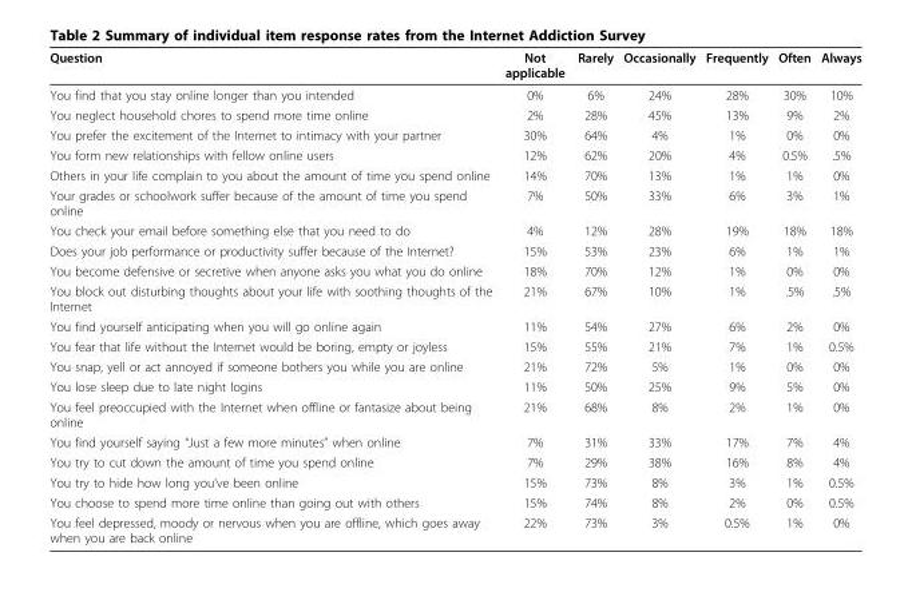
<table><thead><tr><td>Question</td><td>Not applicable</td><td>Rarely</td><td>Occasionally</td><td>Frequently</td><td>Often</td><td>Always</td></tr></thead><tbody><tr><td>You find that you stay online longer than you intended</td><td>0%</td><td>6%</td><td>24%</td><td>28%</td><td>30%</td><td>10%</td></tr><tr><td>You neglect household chores to spend more time online</td><td>2%</td><td>28%</td><td>45%</td><td>13%</td><td>9%</td><td>2%</td></tr><tr><td>You prefer the excitement of the Internet to intimacy with your partner</td><td>30%</td><td>64%</td><td>4%</td><td>1%</td><td>0%</td><td>0%</td></tr><tr><td>You form new relationships with fellow online users</td><td>12%</td><td>62%</td><td>20%</td><td>4%</td><td>0.5%</td><td>.5%</td></tr><tr><td>Others in your life complain to you about the amount of time you spend online</td><td>14%</td><td>70%</td><td>13%</td><td>1%</td><td>1%</td><td>0%</td></tr><tr><td>Your grades or schoolwork suffer because of the amount of time you spend online</td><td>7%</td><td>50%</td><td>33%</td><td>6%</td><td>3%</td><td>1%</td></tr><tr><td>You check your email before something else that you need to do</td><td>4%</td><td>12%</td><td>28%</td><td>19%</td><td>18%</td><td>18%</td></tr><tr><td>Does your job performance or productivity suffer because of the Internet?</td><td>15%</td><td>53%</td><td>23%</td><td>6%</td><td>1%</td><td>1%</td></tr><tr><td>You become defensive or secretive when anyone asks you what you do online</td><td>18%</td><td>70%</td><td>12%</td><td>1%</td><td>0%</td><td>0%</td></tr><tr><td>You block out disturbing thoughts about your life with soothing thoughts of the Internet</td><td>21%</td><td>67%</td><td>10%</td><td>1%</td><td>.5%</td><td>.5%</td></tr><tr><td>You find yourself anticipating when you will go online again</td><td>11%</td><td>54%</td><td>27%</td><td>6%</td><td>2%</td><td>0%</td></tr><tr><td>You fear that life without the Internet would be boring, empty or joyless</td><td>15%</td><td>55%</td><td>21%</td><td>7%</td><td>1%</td><td>0.5%</td></tr><tr><td>You snap, yell or act annoyed if someone bothers you while you are online</td><td>21%</td><td>72%</td><td>5%</td><td>1%</td><td>0%</td><td>0%</td></tr><tr><td>You lose sleep due to late night logins</td><td>11%</td><td>50%</td><td>25%</td><td>9%</td><td>5%</td><td>0%</td></tr><tr><td>You feel preoccupied with the Internet when offline or fantasize about being online</td><td>21%</td><td>68%</td><td>8%</td><td>2%</td><td>1%</td><td>0%</td></tr><tr><td>You find yourself saying “Just a few more minutes” when online</td><td>7%</td><td>31%</td><td>33%</td><td>17%</td><td>7%</td><td>4%</td></tr><tr><td>You try to cut down the amount of time you spend online</td><td>7%</td><td>29%</td><td>38%</td><td>16%</td><td>8%</td><td>4%</td></tr><tr><td>You try to hide how long you’ve been online</td><td>15%</td><td>73%</td><td>8%</td><td>3%</td><td>1%</td><td>0.5%</td></tr><tr><td>You choose to spend more time online than going out with others</td><td>15%</td><td>74%</td><td>8%</td><td>2%</td><td>0%</td><td>0.5%</td></tr><tr><td>You feel depressed, moody or nervous when you are offline, which goes away when you are back online</td><td>22%</td><td>73%</td><td>3%</td><td>0.5%</td><td>1%</td><td>0%</td></tr></tbody></table>